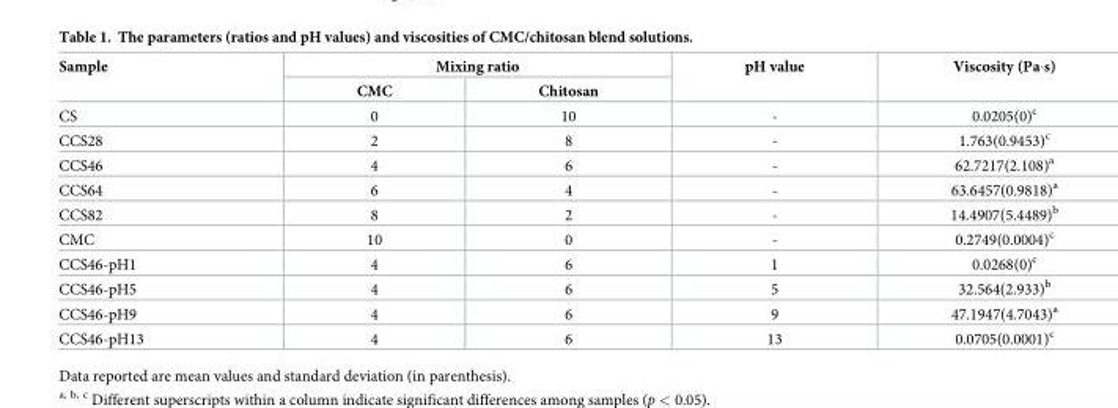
<table><thead><tr><td rowspan="2">Sample</td><td colspan="2">Mixing ratio</td><td rowspan="2">pH value</td><td rowspan="2">Viscosity (Pa·s)</td></tr><tr><td>CMC</td><td>Chitosan</td></tr></thead><tbody><tr><td>CS</td><td>0</td><td>10</td><td>-</td><td>0.0205(0)<sup>c</sup></td></tr><tr><td>CCS28</td><td>2</td><td>8</td><td>-</td><td>1.763(0.9453)<sup>c</sup></td></tr><tr><td>CCS46</td><td>4</td><td>6</td><td>-</td><td>62.7217(2.108)<sup>a</sup></td></tr><tr><td>CCS64</td><td>6</td><td>4</td><td>-</td><td>63.6457(0.9818)<sup>a</sup></td></tr><tr><td>CCS82</td><td>8</td><td>2</td><td>-</td><td>14.4907(5.4489)<sup>b</sup></td></tr><tr><td>CMC</td><td>10</td><td>0</td><td>-</td><td>0.2749(0.0004)<sup>c</sup></td></tr><tr><td>CCS46-pH1</td><td>4</td><td>6</td><td>1</td><td>0.0268(0)<sup>c</sup></td></tr><tr><td>CCS46-pH5</td><td>4</td><td>6</td><td>5</td><td>32.564(2.933)<sup>b</sup></td></tr><tr><td>CCS46-pH9</td><td>4</td><td>6</td><td>9</td><td>47.1947(4.7043)<sup>a</sup></td></tr><tr><td>CCS46-pH13</td><td>4</td><td>6</td><td>13</td><td>0.0705(0.0001)<sup>c</sup></td></tr></tbody></table>